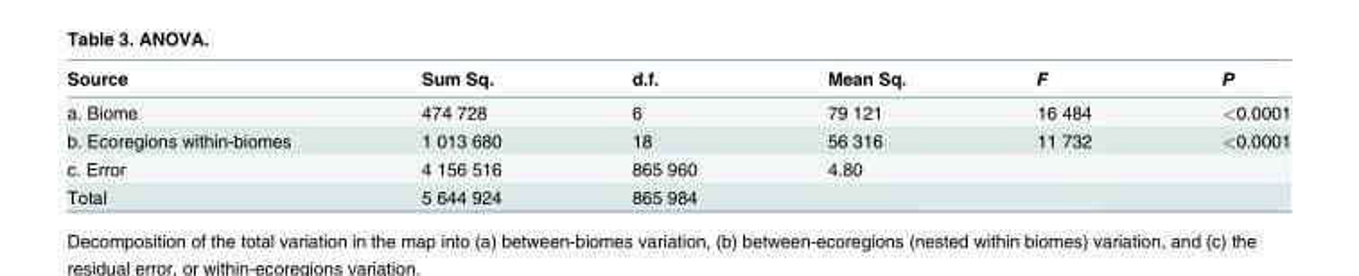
<table><thead><tr><td>Source</td><td>Sum Sq.</td><td>d.f.</td><td>Mean Sq.</td><td>F</td><td>P</td></tr></thead><tbody><tr><td>a. Biome</td><td>474 728</td><td>6</td><td>79 121</td><td>16 484</td><td>&lt;0.0001</td></tr><tr><td>b. Ecoregions within-biomes</td><td>1 013 680</td><td>18</td><td>56 316</td><td>11 732</td><td>&lt;0.0001</td></tr><tr><td>c. Error</td><td>4 156 516</td><td>865 960</td><td>4.80</td><td></td><td></td></tr><tr><td>Total</td><td>5 644 924</td><td>865 984</td><td></td><td></td><td></td></tr></tbody></table>